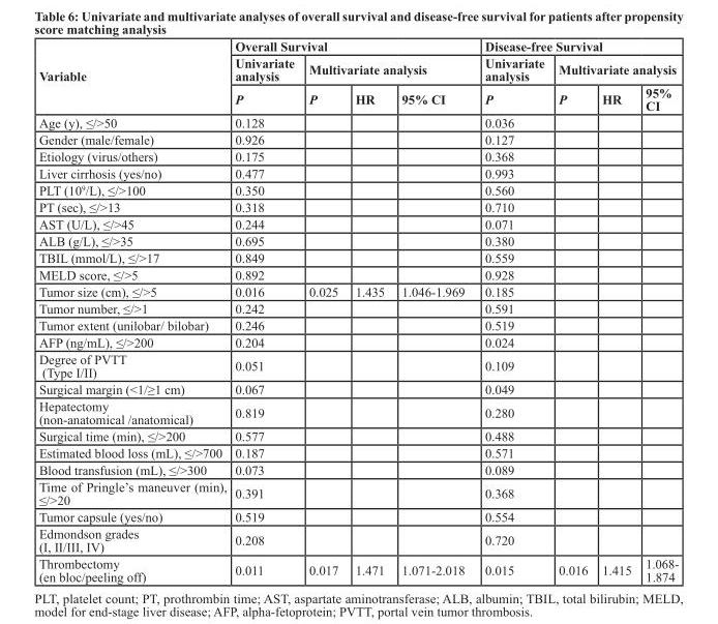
<table><thead><tr><td rowspan="3">Variable</td><td colspan="4">Overall Survival</td><td colspan="4">Disease-free Survival</td></tr><tr><td rowspan="2">Univariate analysis P</td><td colspan="3">Multivariate analysis</td><td rowspan="2">Univariate analysis P</td><td colspan="3">Multivariate analysis</td></tr><tr><td>P</td><td>HR</td><td>95% CI</td><td>P</td><td>HR</td><td>95% CI</td></tr></thead><tbody><tr><td>Age (y), ≤/&gt;50</td><td>0.128</td><td></td><td></td><td></td><td>0.036</td><td></td><td></td><td></td></tr><tr><td>Gender (male/female)</td><td>0.926</td><td></td><td></td><td></td><td>0.127</td><td></td><td></td><td></td></tr><tr><td>Etiology (virus/others)</td><td>0.175</td><td></td><td></td><td></td><td>0.368</td><td></td><td></td><td></td></tr><tr><td>Liver cirrhosis (yes/no)</td><td>0.477</td><td></td><td></td><td></td><td>0.993</td><td></td><td></td><td></td></tr><tr><td>PLT (109/L), ≤/&gt;100</td><td>0.350</td><td></td><td></td><td></td><td>0.560</td><td></td><td></td><td></td></tr><tr><td>PT (sec), ≤/&gt;13</td><td>0.318</td><td></td><td></td><td></td><td>0.710</td><td></td><td></td><td></td></tr><tr><td>AST (U/L), ≤/&gt;45</td><td>0.244</td><td></td><td></td><td></td><td>0.071</td><td></td><td></td><td></td></tr><tr><td>ALB (g/L), ≤/&gt;35</td><td>0.695</td><td></td><td></td><td></td><td>0.380</td><td></td><td></td><td></td></tr><tr><td>TBIL (mmol/L), ≤/&gt;17</td><td>0.849</td><td></td><td></td><td></td><td>0.559</td><td></td><td></td><td></td></tr><tr><td>MELD score, ≤/&gt;5</td><td>0.892</td><td></td><td></td><td></td><td>0.928</td><td></td><td></td><td></td></tr><tr><td>Tumor size (cm), ≤/&gt;5</td><td>0.016</td><td>0.025</td><td>1.435</td><td>1.046-1.969</td><td>0.185</td><td></td><td></td><td></td></tr><tr><td>Tumor number, ≤/&gt;1</td><td>0.242</td><td></td><td></td><td></td><td>0.591</td><td></td><td></td><td></td></tr><tr><td>Tumor extent (unilobar/ bilobar)</td><td>0.246</td><td></td><td></td><td></td><td>0.519</td><td></td><td></td><td></td></tr><tr><td>AFP (ng/mL), ≤/&gt;200</td><td>0.204</td><td></td><td></td><td></td><td>0.024</td><td></td><td></td><td></td></tr><tr><td>Degree of PVTT (Type I/II)</td><td>0.051</td><td></td><td></td><td></td><td>0.109</td><td></td><td></td><td></td></tr><tr><td>Surgical margin (&lt;1/≥1 cm)</td><td>0.067</td><td></td><td></td><td></td><td>0.049</td><td></td><td></td><td></td></tr><tr><td>Hepatectomy (non-anatomical /anatomical)</td><td>0.819</td><td></td><td></td><td></td><td>0.280</td><td></td><td></td><td></td></tr><tr><td>Surgical time (min), ≤/&gt;200</td><td>0.577</td><td></td><td></td><td></td><td>0.488</td><td></td><td></td><td></td></tr><tr><td>Estimated blood loss (mL), ≤/&gt;700</td><td>0.187</td><td></td><td></td><td></td><td>0.571</td><td></td><td></td><td></td></tr><tr><td>Blood transfusion (mL), ≤/&gt;300</td><td>0.073</td><td></td><td></td><td></td><td>0.089</td><td></td><td></td><td></td></tr><tr><td>Time of Pringle’s maneuver (min), ≤/&gt;20</td><td>0.391</td><td></td><td></td><td></td><td>0.368</td><td></td><td></td><td></td></tr><tr><td>Tumor capsule (yes/no)</td><td>0.519</td><td></td><td></td><td></td><td>0.554</td><td></td><td></td><td></td></tr><tr><td>Edmondson grades (I, II/III, IV)</td><td>0.208</td><td></td><td></td><td></td><td>0.720</td><td></td><td></td><td></td></tr><tr><td>Thrombectomy (en bloc/peeling off)</td><td>0.011</td><td>0.017</td><td>1.471</td><td>1.071-2.018</td><td>0.015</td><td>0.016</td><td>1.415</td><td>1.068- 1.874</td></tr></tbody></table>